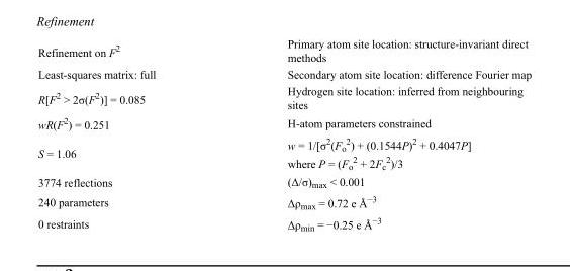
<table><tbody><tr><td>Refinement on F<sup>2</sup></td><td>Primary atom site location: structure-invariant direct methods</td></tr><tr><td>Least-squares matrix: full</td><td>Secondary atom site location: difference Fourier map</td></tr><tr><td>R[F<sup>2</sup> &gt; 2σ(F<sup>2</sup>)] = 0.085</td><td>Hydrogen site location: inferred from neighbouring sites</td></tr><tr><td>wR(F<sup>2</sup>) = 0.251</td><td>H-atom parameters constrained</td></tr><tr><td>S = 1.06</td><td>w = 1/[σ<sup>2</sup>(F<sub>o</sub> <sup>2</sup>) + (0.1544P)<sup>2</sup> + 0.4047P] where P = (F<sub>o</sub> <sup>2</sup> + 2F<sub>c</sub> <sup>2</sup>)/3</td></tr><tr><td>3774 reflections</td><td>(Δ/σ)<sub>max</sub> &lt; 0.001</td></tr><tr><td>240 parameters</td><td>Δρ<sub>max</sub> = 0.72 e Å<sup>−3</sup></td></tr><tr><td>0 restraints</td><td>Δρ<sub>min</sub> = −0.25 e Å<sup>−3</sup></td></tr></tbody></table>